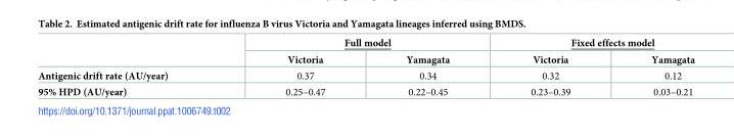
<table><thead><tr><td rowspan="2"></td><td colspan="2">Full model</td><td colspan="2">Fixed effects model</td></tr><tr><td>Victoria</td><td>Yamagata</td><td>Victoria</td><td>Yamagata</td></tr></thead><tbody><tr><td>Antigenic drift rate (AU/year)</td><td>0.37</td><td>0.34</td><td>0.32</td><td>0.12</td></tr><tr><td>95% HPD (AU/year)</td><td>0.25–0.47</td><td>0.22–0.45</td><td>0.23–0.39</td><td>0.03–0.21</td></tr></tbody></table>